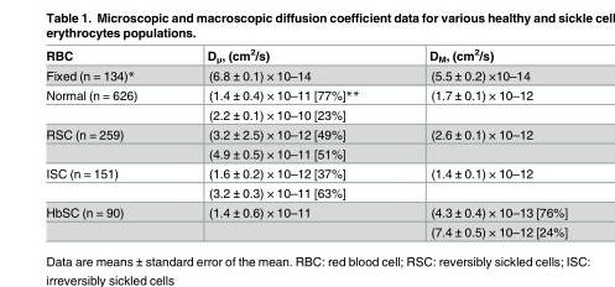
<table><thead><tr><td>RBC</td><td>D<sub>μ</sub>, (cm<sup>2</sup>/s)</td><td>D<sub>M</sub>, (cm<sup>2</sup>/s)</td></tr></thead><tbody><tr><td>Fixed (n = 134)*</td><td>(6.8 ± 0.1) × 10–14</td><td>(5.5 ± 0.2) ×10–14</td></tr><tr><td rowspan="2">Normal (n = 626)</td><td>(1.4 ± 0.4) × 10–11 [77%]**</td><td>(1.7 ± 0.1) × 10–12</td></tr><tr><td>(2.2 ± 0.1) × 10–10 [23%]</td><td></td></tr><tr><td rowspan="2">RSC (n = 259)</td><td>(3.2 ± 2.5) × 10–12 [49%]</td><td>(2.6 ± 0.1) × 10–12</td></tr><tr><td>(4.9 ± 0.5) × 10–11 [51%]</td><td></td></tr><tr><td rowspan="2">ISC (n = 151)</td><td>(1.6 ± 0.2) × 10–12 [37%]</td><td>(1.4 ± 0.1) × 10–12</td></tr><tr><td>(3.2 ± 0.3) × 10–11 [63%]</td><td></td></tr><tr><td rowspan="2">HbSC (n = 90)</td><td>(1.4 ± 0.6) × 10–11</td><td>(4.3 ± 0.4) × 10–13 [76%]</td></tr><tr><td></td><td>(7.4 ± 0.5) × 10–12 [24%]</td></tr></tbody></table>